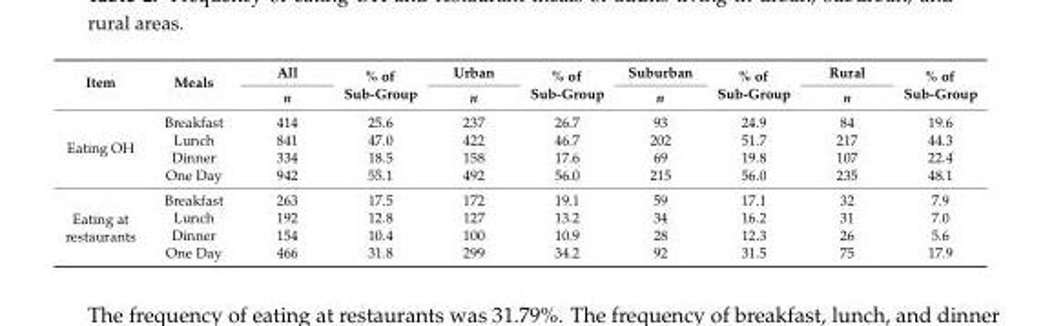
<table><thead><tr><td rowspan="2">Item</td><td rowspan="2">Meals</td><td rowspan="2">All n</td><td rowspan="2">% of Sub-Group</td><td rowspan="2">Urban n</td><td rowspan="2">% of Sub-Group</td><td rowspan="2">Suburban n</td><td rowspan="2">% of Sub-Group</td><td rowspan="2">Rural n</td><td rowspan="2">% of Sub-Group</td></tr><tr></tr></thead><tbody><tr><td rowspan="4">Eating OH</td><td>Breakfast</td><td>414</td><td>25.6</td><td>237</td><td>26.7</td><td>93</td><td>24.9</td><td>84</td><td>19.6</td></tr><tr><td>Lunch</td><td>841</td><td>47.0</td><td>422</td><td>46.7</td><td>202</td><td>51.7</td><td>217</td><td>44.3</td></tr><tr><td>Dinner</td><td>334</td><td>18.5</td><td>158</td><td>17.6</td><td>69</td><td>19.8</td><td>107</td><td>22.4</td></tr><tr><td>One Day</td><td>942</td><td>55.1</td><td>492</td><td>56.0</td><td>215</td><td>56.0</td><td>235</td><td>48.1</td></tr><tr><td rowspan="4">Eating at restaurants</td><td>Breakfast</td><td>263</td><td>17.5</td><td>172</td><td>19.1</td><td>59</td><td>17.1</td><td>32</td><td>7.9</td></tr><tr><td>Lunch</td><td>192</td><td>12.8</td><td>127</td><td>13.2</td><td>34</td><td>16.2</td><td>31</td><td>7.0</td></tr><tr><td>Dinner</td><td>154</td><td>10.4</td><td>100</td><td>10.9</td><td>28</td><td>12.3</td><td>26</td><td>5.6</td></tr><tr><td>One Day</td><td>466</td><td>31.8</td><td>299</td><td>34.2</td><td>92</td><td>31.5</td><td>75</td><td>17.9</td></tr></tbody></table>